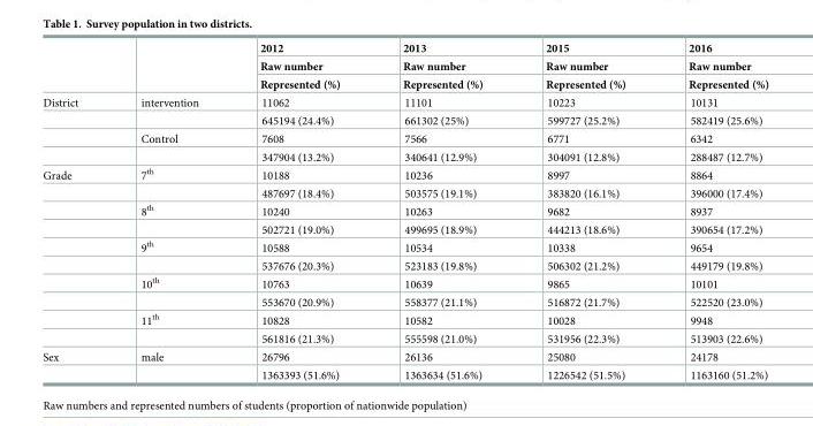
<table><thead><tr><td rowspan="3"></td><td rowspan="3"></td><td rowspan="3">2012 Raw number Represented (%)</td><td rowspan="3">2013 Raw number Represented (%)</td><td rowspan="3">2015 Raw number Represented (%)</td><td rowspan="3">2016 Raw number Represented (%)</td></tr><tr></tr><tr></tr></thead><tbody><tr><td rowspan="4">District</td><td>intervention</td><td>11062</td><td>11101</td><td>10223</td><td>10131</td></tr><tr><td></td><td>645194 (24.4%)</td><td>661302 (25%)</td><td>599727 (25.2%)</td><td>582419 (25.6%)</td></tr><tr><td>Control</td><td>7608</td><td>7566</td><td>6771</td><td>6342</td></tr><tr><td></td><td>347904 (13.2%)</td><td>340641 (12.9%)</td><td>304091 (12.8%)</td><td>288487 (12.7%)</td></tr><tr><td rowspan="10">Grade</td><td>7<sup>th</sup></td><td>10188</td><td>10236</td><td>8997</td><td>8864</td></tr><tr><td></td><td>487697 (18.4%)</td><td>503575 (19.1%)</td><td>383820 (16.1%)</td><td>396000 (17.4%)</td></tr><tr><td>8<sup>th</sup></td><td>10240</td><td>10263</td><td>9682</td><td>8937</td></tr><tr><td></td><td>502721 (19.0%)</td><td>499695 (18.9%)</td><td>444213 (18.6%)</td><td>390654 (17.2%)</td></tr><tr><td>9<sup>th</sup></td><td>10588</td><td>10534</td><td>10338</td><td>9654</td></tr><tr><td></td><td>537676 (20.3%)</td><td>523183 (19.8%)</td><td>506302 (21.2%)</td><td>449179 (19.8%)</td></tr><tr><td>10<sup>th</sup></td><td>10763</td><td>10639</td><td>9865</td><td>10101</td></tr><tr><td></td><td>553670 (20.9%)</td><td>558377 (21.1%)</td><td>516872 (21.7%)</td><td>522520 (23.0%)</td></tr><tr><td>11<sup>th</sup></td><td>10828</td><td>10582</td><td>10028</td><td>9948</td></tr><tr><td></td><td>561816 (21.3%)</td><td>555598 (21.0%)</td><td>531956 (22.3%)</td><td>513903 (22.6%)</td></tr><tr><td rowspan="2">Sex</td><td>male</td><td>26796</td><td>26136</td><td>25080</td><td>24178</td></tr><tr><td></td><td>1363393 (51.6%)</td><td>1363634 (51.6%)</td><td>1226542 (51.5%)</td><td>1163160 (51.2%)</td></tr></tbody></table>